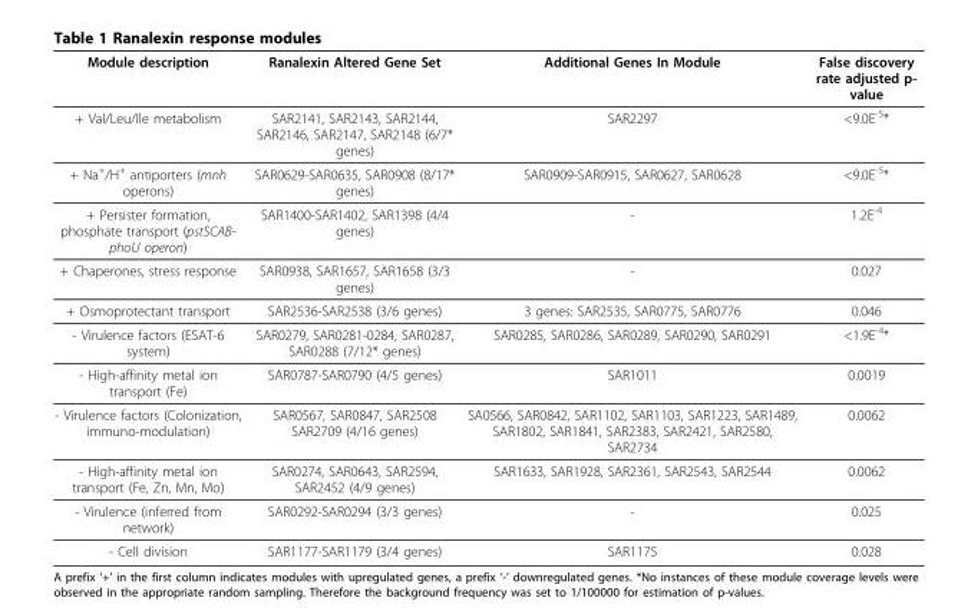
<table><thead><tr><td>Module description</td><td>Ranalexin Altered Gene Set</td><td>Additional Genes In Module</td><td>False discovery rate adjusted p- value</td></tr></thead><tbody><tr><td>+ Val/Leu/Ile metabolism</td><td>SAR2141, SAR2143, SAR2144, SAR2146, SAR2147, SAR2148 (6/7* genes)</td><td>SAR2297</td><td>&lt;9.0E<sup>-5</sup>*</td></tr><tr><td>+ Na<sup>+</sup>/H<sup>+</sup> antiporters (mnh operons)</td><td>SAR0629-SAR0635, SAR0908 (8/17* genes)</td><td>SAR0909-SAR0915, SAR0627, SAR0628</td><td>&lt;9.0E<sup>-5</sup>*</td></tr><tr><td>+ Persister formation, phosphate transport (pstSCAB- phoU operon)</td><td>SAR1400-SAR1402, SAR1398 (4/4 genes)</td><td>-</td><td>1.2E<sup>-4</sup></td></tr><tr><td>+ Chaperones, stress response</td><td>SAR0938, SAR1657, SAR1658 (3/3 genes)</td><td>-</td><td>0.027</td></tr><tr><td>+ Osmoprotectant transport</td><td>SAR2536-SAR2538 (3/6 genes)</td><td>3 genes: SAR2535, SAR0775, SAR0776</td><td>0.046</td></tr><tr><td>- Virulence factors (ESAT-6 system)</td><td>SAR0279, SAR0281-0284, SAR0287, SAR0288 (7/12* genes)</td><td>SAR0285, SAR0286, SAR0289, SAR0290, SAR0291</td><td>&lt;1.9E<sup>-4</sup>*</td></tr><tr><td>- High-affinity metal ion transport (Fe)</td><td>SAR0787-SAR0790 (4/5 genes)</td><td>SAR1011</td><td>0.0019</td></tr><tr><td>- Virulence factors (Colonization, immuno-modulation)</td><td>SAR0567, SAR0847, SAR2508 SAR2709 (4/16 genes)</td><td>SA0566, SAR0842, SAR1102, SAR1103, SAR1223, SAR1489, SAR1802, SAR1841, SAR2383, SAR2421, SAR2580, SAR2734</td><td>0.0062</td></tr><tr><td>- High-affinity metal ion transport (Fe, Zn, Mn, Mo)</td><td>SAR0274, SAR0643, SAR2594, SAR2452 (4/9 genes)</td><td>SAR1633, SAR1928, SAR2361, SAR2543, SAR2544</td><td>0.0062</td></tr><tr><td>- Virulence (inferred from network)</td><td>SAR0292-SAR0294 (3/3 genes)</td><td>-</td><td>0.025</td></tr><tr><td>- Cell division</td><td>SAR1177-SAR1179 (3/4 genes)</td><td>SAR1175</td><td>0.028</td></tr></tbody></table>